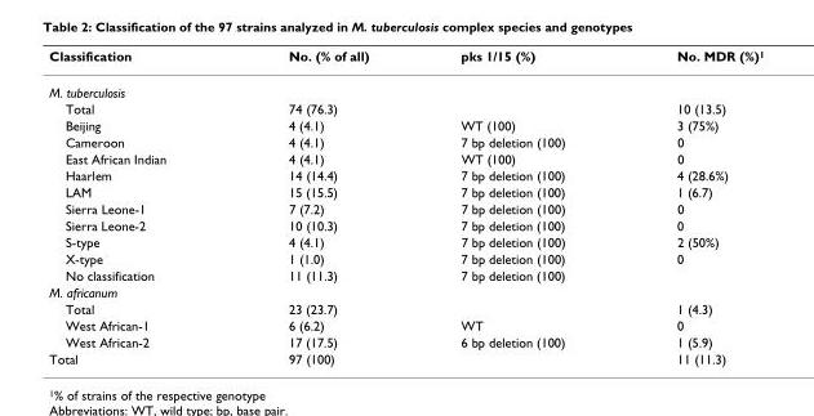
<table><thead><tr><td>Classification</td><td>No. (% of all)</td><td>pks 1/15 (%)</td><td>No. MDR (%)<sup>1</sup></td></tr></thead><tbody><tr><td colspan="4">M. tuberculosis</td></tr><tr><td>Total</td><td>74 (76.3)</td><td></td><td>10 (13.5)</td></tr><tr><td>Beijing</td><td>4 (4.1)</td><td>WT (100)</td><td>3 (75%)</td></tr><tr><td>Cameroon</td><td>4 (4.1)</td><td>7 bp deletion (100)</td><td>0</td></tr><tr><td>East African Indian</td><td>4 (4.1)</td><td>WT (100)</td><td>0</td></tr><tr><td>Haarlem</td><td>14 (14.4)</td><td>7 bp deletion (100)</td><td>4 (28.6%)</td></tr><tr><td>LAM</td><td>15 (15.5)</td><td>7 bp deletion (100)</td><td>1 (6.7)</td></tr><tr><td>Sierra Leone-1</td><td>7 (7.2)</td><td>7 bp deletion (100)</td><td>0</td></tr><tr><td>Sierra Leone-2</td><td>10 (10.3)</td><td>7 bp deletion (100)</td><td>0</td></tr><tr><td>S-type</td><td>4 (4.1)</td><td>7 bp deletion (100)</td><td>2 (50%)</td></tr><tr><td>X-type</td><td>1 (1.0)</td><td>7 bp deletion (100)</td><td>0</td></tr><tr><td>No classification</td><td>11 (11.3)</td><td>7 bp deletion (100)</td><td></td></tr><tr><td colspan="4">M. africanum</td></tr><tr><td>Total</td><td>23 (23.7)</td><td></td><td>1 (4.3)</td></tr><tr><td>West African-1</td><td>6 (6.2)</td><td>WT</td><td>0</td></tr><tr><td>West African-2</td><td>17 (17.5)</td><td>6 bp deletion (100)</td><td>1 (5.9)</td></tr><tr><td>Total</td><td>97 (100)</td><td></td><td>11 (11.3)</td></tr></tbody></table>